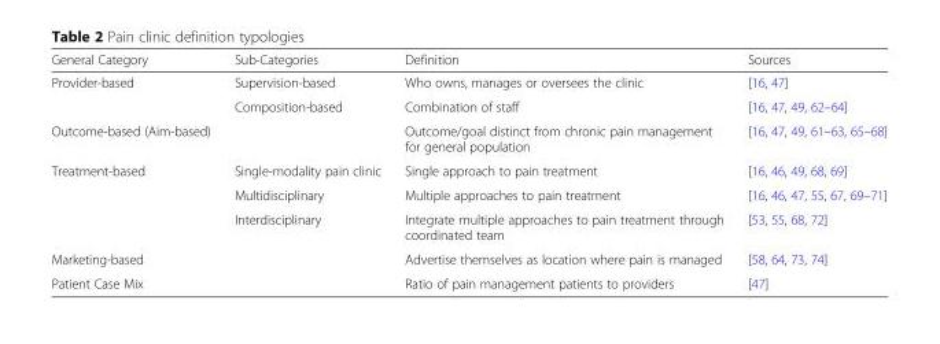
<table><thead><tr><td>General Category</td><td>Sub-Categories</td><td>Definition</td><td>Sources</td></tr></thead><tbody><tr><td rowspan="2">Provider-based</td><td>Supervision-based</td><td>Who owns, manages or oversees the clinic</td><td>[16, 47]</td></tr><tr><td>Composition-based</td><td>Combination of staff</td><td>[16, 47, 49, 62–64]</td></tr><tr><td>Outcome-based (Aim-based)</td><td></td><td>Outcome/goal distinct from chronic pain management for general population</td><td>[16, 47, 49, 61–63, 65–68]</td></tr><tr><td rowspan="3">Treatment-based</td><td>Single-modality pain clinic</td><td>Single approach to pain treatment</td><td>[16, 46, 49, 68, 69]</td></tr><tr><td>Multidisciplinary</td><td>Multiple approaches to pain treatment</td><td>[16, 46, 47, 55, 67, 69–71]</td></tr><tr><td>Interdisciplinary</td><td>Integrate multiple approaches to pain treatment through coordinated team</td><td>[53, 55, 68, 72]</td></tr><tr><td>Marketing-based</td><td></td><td>Advertise themselves as location where pain is managed</td><td>[58, 64, 73, 74]</td></tr><tr><td>Patient Case Mix</td><td></td><td>Ratio of pain management patients to providers</td><td>[47]</td></tr></tbody></table>